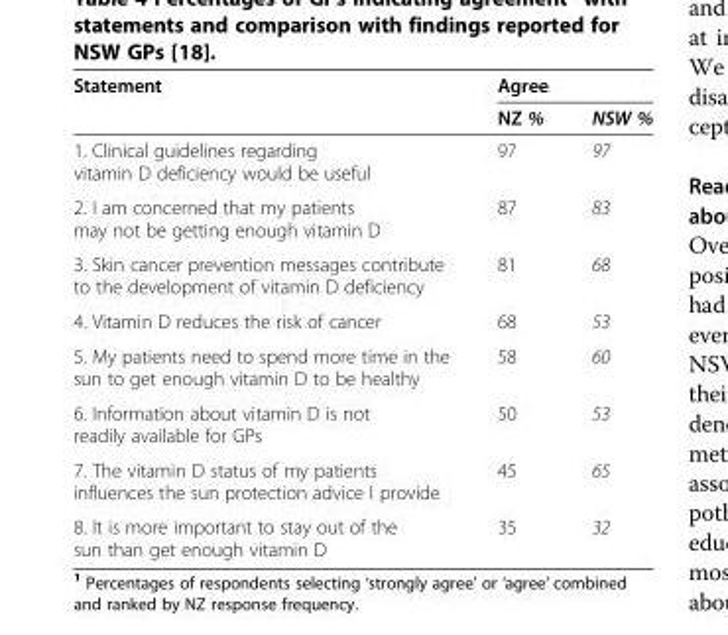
<table><thead><tr><td rowspan="2">Statement</td><td colspan="2">Agree</td></tr><tr><td>NZ %</td><td>NSW %</td></tr></thead><tbody><tr><td>1. Clinical guidelines regarding vitamin D deficiency would be useful</td><td>97</td><td>97</td></tr><tr><td>2. I am concerned that my patients may not be getting enough vitamin D</td><td>87</td><td>83</td></tr><tr><td>3. Skin cancer prevention messages contribute to the development of vitamin D deficiency</td><td>81</td><td>68</td></tr><tr><td>4. Vitamin D reduces the risk of cancer</td><td>68</td><td>53</td></tr><tr><td>5. My patients need to spend more time in the sun to get enough vitamin D to be healthy</td><td>58</td><td>60</td></tr><tr><td>6. Information about vitamin D is not readily available for GPs</td><td>50</td><td>53</td></tr><tr><td>7. The vitamin D status of my patients influences the sun protection advice I provide</td><td>45</td><td>65</td></tr><tr><td>8. It is more important to stay out of the sun than get enough vitamin D</td><td>35</td><td>32</td></tr></tbody></table>